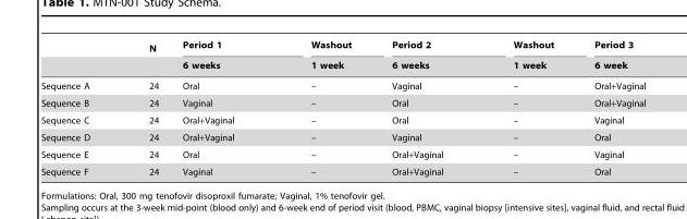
<table><thead><tr><td rowspan="2"></td><td rowspan="2">N</td><td rowspan="2">Period 1 6 weeks</td><td rowspan="2">Washout 1 week</td><td rowspan="2">Period 2 6 weeks</td><td rowspan="2">Washout 1 week</td><td rowspan="2">Period 3 6 week</td></tr><tr></tr></thead><tbody><tr><td>Sequence A</td><td>24</td><td>Oral</td><td>–</td><td>Vaginal</td><td>–</td><td>Oral+Vaginal</td></tr><tr><td>Sequence B</td><td>24</td><td>Vaginal</td><td>–</td><td>Oral</td><td>–</td><td>Oral+Vaginal</td></tr><tr><td>Sequence C</td><td>24</td><td>Oral+Vaginal</td><td>–</td><td>Oral</td><td>–</td><td>Vaginal</td></tr><tr><td>Sequence D</td><td>24</td><td>Oral+Vaginal</td><td>–</td><td>Vaginal</td><td>–</td><td>Oral</td></tr><tr><td>Sequence E</td><td>24</td><td>Oral</td><td>–</td><td>Oral+Vaginal</td><td>–</td><td>Vaginal</td></tr><tr><td>Sequence F</td><td>24</td><td>Vaginal</td><td>–</td><td>Oral+Vaginal</td><td>–</td><td>Oral</td></tr></tbody></table>